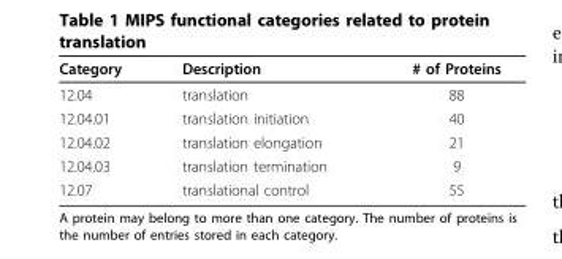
<table><thead><tr><td>Category</td><td>Description</td><td># of Proteins</td></tr></thead><tbody><tr><td>12.04</td><td>translation</td><td>88</td></tr><tr><td>12.04.01</td><td>translation initiation</td><td>40</td></tr><tr><td>12.04.02</td><td>translation elongation</td><td>21</td></tr><tr><td>12.04.03</td><td>translation termination</td><td>9</td></tr><tr><td>12.07</td><td>translational control</td><td>55</td></tr></tbody></table>